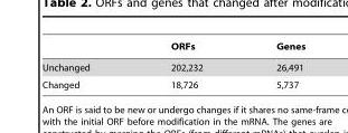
<table><thead><tr><td></td><td>ORFs</td><td>Genes</td></tr></thead><tbody><tr><td>Unchanged</td><td>202,232</td><td>26,491</td></tr><tr><td>Changed</td><td>18,726</td><td>5,737</td></tr></tbody></table>